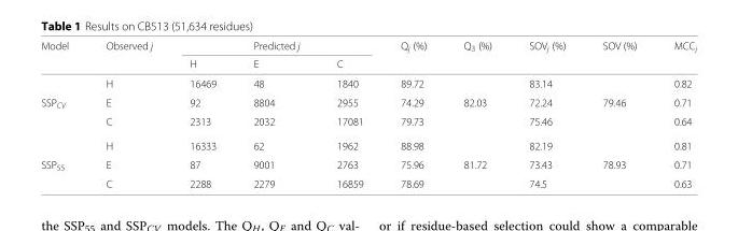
<table><thead><tr><td rowspan="2">Model</td><td rowspan="2">Observed j</td><td rowspan="2">H</td><td rowspan="2">Predicted j E</td><td rowspan="2">C</td><td rowspan="2">Q<sub>j</sub> (%)</td><td rowspan="2">Q<sub>3</sub> (%)</td><td rowspan="2">SOV<sub>j</sub> (%)</td><td rowspan="2">SOV (%)</td><td rowspan="2">MCC<sub>j</sub></td></tr><tr></tr></thead><tbody><tr><td></td><td>H</td><td>16469</td><td>48</td><td>1840</td><td>89.72</td><td></td><td>83.14</td><td></td><td>0.82</td></tr><tr><td rowspan="3">SSP<sub>CV</sub></td><td>E</td><td>92</td><td>8804</td><td>2955</td><td>74.29</td><td>82.03</td><td>72.24</td><td>79.46</td><td>0.71</td></tr><tr><td>C</td><td>2313</td><td>2032</td><td>17081</td><td>79.73</td><td></td><td>75.46</td><td></td><td>0.64</td></tr><tr><td>H</td><td>16333</td><td>62</td><td>1962</td><td>88.98</td><td></td><td>82.19</td><td></td><td>0.81</td></tr><tr><td rowspan="2">SSP<sub>55</sub></td><td>E</td><td>87</td><td>9001</td><td>2763</td><td>75.96</td><td>81.72</td><td>73.43</td><td>78.93</td><td>0.71</td></tr><tr><td>C</td><td>2288</td><td>2279</td><td>16859</td><td>78.69</td><td></td><td>74.5</td><td></td><td>0.63</td></tr></tbody></table>